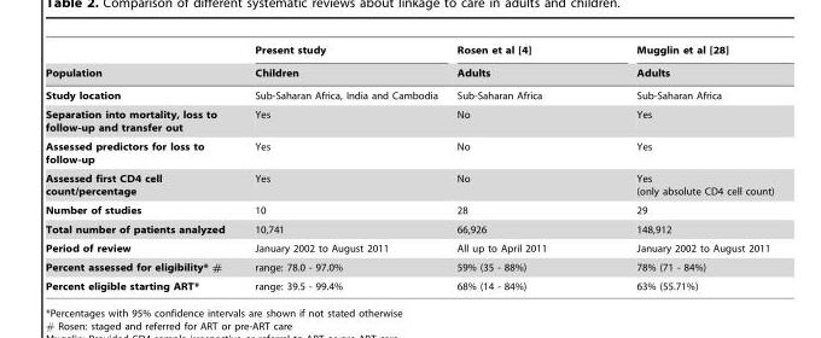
<table><thead><tr><td rowspan="2">Population</td><td rowspan="2">Present study Children</td><td rowspan="2">Rosen et al [4] Adults</td><td rowspan="2">Mugglin et al [28] Adults</td></tr><tr></tr></thead><tbody><tr><td>Study location</td><td>Sub-Saharan Africa, India and Cambodia</td><td>Sub-Saharan Africa</td><td>Sub-Saharan Africa</td></tr><tr><td>Separation into mortality, loss to follow-up and transfer out</td><td>Yes</td><td>No</td><td>Yes</td></tr><tr><td>Assessed predictors for loss to follow-up</td><td>Yes</td><td>No</td><td>Yes</td></tr><tr><td>Assessed first CD4 cell count/percentage</td><td>Yes</td><td>No</td><td>Yes (only absolute CD4 cell count)</td></tr><tr><td>Number of studies</td><td>10</td><td>28</td><td>29</td></tr><tr><td>Total number of patients analyzed</td><td>10,741</td><td>66,926</td><td>148,912</td></tr><tr><td>Period of review</td><td>January 2002 to August 2011</td><td>All up to April 2011</td><td>January 2002 to August 2011</td></tr><tr><td>Percent assessed for eligibility* #</td><td>range: 78.0 - 97.0%</td><td>59% (35 - 88%)</td><td>78% (71 - 84%)</td></tr><tr><td>Percent eligible starting ART*</td><td>range: 39.5 - 99.4%</td><td>68% (14 - 84%)</td><td>63% (55.71%)</td></tr></tbody></table>